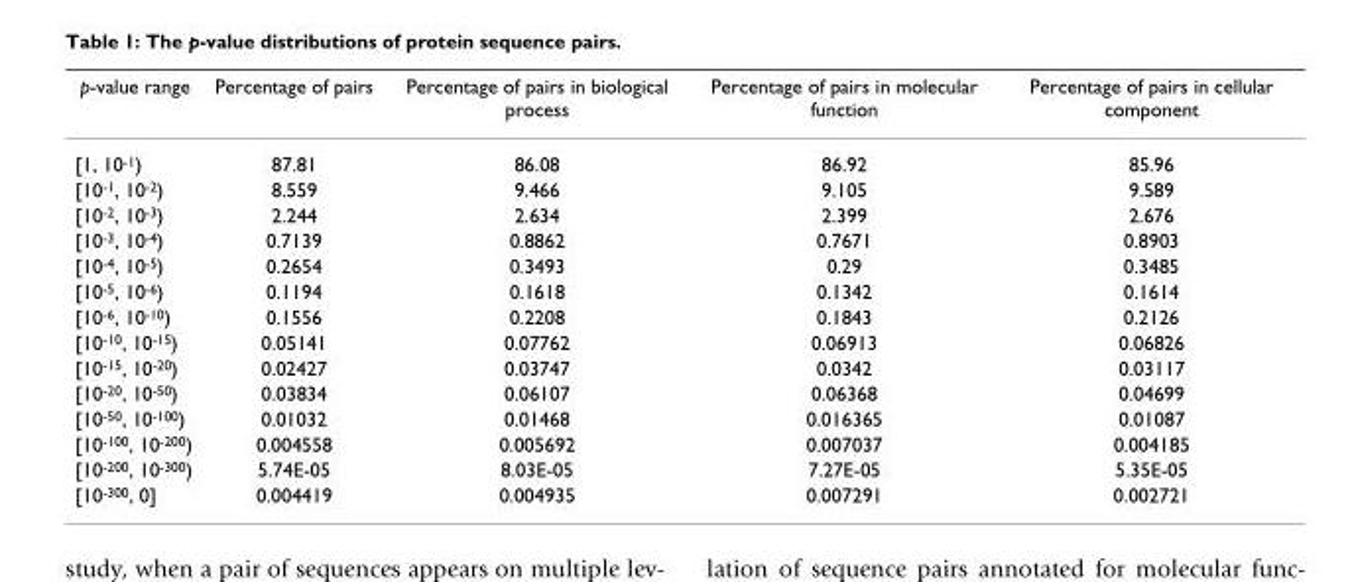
<table><thead><tr><td>p-value range</td><td>Percentage of pairs</td><td>Percentage of pairs in biological process</td><td>Percentage of pairs in molecular function</td><td>Percentage of pairs in cellular component</td></tr></thead><tbody><tr><td>[1, 10-1)</td><td>87.81</td><td>86.08</td><td>86.92</td><td>85.96</td></tr><tr><td>[10-1, 10-2)</td><td>8.559</td><td>9.466</td><td>9.105</td><td>9.589</td></tr><tr><td>[10-2, 10-3)</td><td>2.244</td><td>2.634</td><td>2.399</td><td>2.676</td></tr><tr><td>[10-3, 10-4)</td><td>0.7139</td><td>0.8862</td><td>0.7671</td><td>0.8903</td></tr><tr><td>[10-4, 10-5)</td><td>0.2654</td><td>0.3493</td><td>0.29</td><td>0.3485</td></tr><tr><td>[10-5, 10-6)</td><td>0.1194</td><td>0.1618</td><td>0.1342</td><td>0.1614</td></tr><tr><td>[10-6, 10-10)</td><td>0.1556</td><td>0.2208</td><td>0.1843</td><td>0.2126</td></tr><tr><td>[10-10, 10-15)</td><td>0.05141</td><td>0.07762</td><td>0.06913</td><td>0.06826</td></tr><tr><td>[10-15, 10-20)</td><td>0.02427</td><td>0.03747</td><td>0.0342</td><td>0.03117</td></tr><tr><td>[10-20, 10-50)</td><td>0.03834</td><td>0.06107</td><td>0.06368</td><td>0.04699</td></tr><tr><td>[10-50, 10-100)</td><td>0.01032</td><td>0.01468</td><td>0.016365</td><td>0.01087</td></tr><tr><td>[10-100, 10-200)</td><td>0.004558</td><td>0.005692</td><td>0.007037</td><td>0.004185</td></tr><tr><td>[10-200, 10-300)</td><td>5.74E-05</td><td>8.03E-05</td><td>7.27E-05</td><td>5.35E-05</td></tr><tr><td>[10-300, 0]</td><td>0.004419</td><td>0.004935</td><td>0.007291</td><td>0.002721</td></tr></tbody></table>